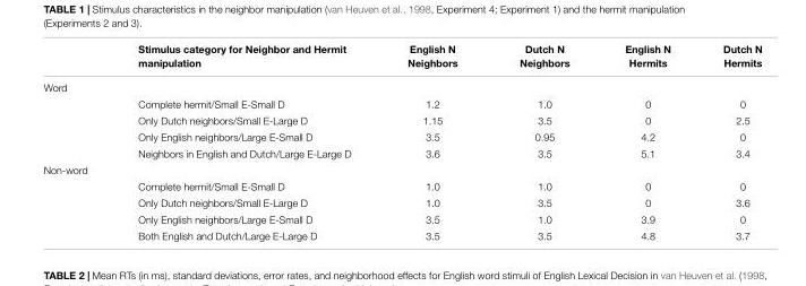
<table><thead><tr><td></td><td>Stimulus category for Neighbor and Hermit manipulation</td><td>English N Neighbors</td><td>Dutch N Neighbors</td><td>English N Hermits</td><td>Dutch N Hermits</td></tr></thead><tbody><tr><td colspan="6">Word</td></tr><tr><td></td><td>Complete hermit/Small E-Small D</td><td>1.2</td><td>1.0</td><td>0</td><td>0</td></tr><tr><td></td><td>Only Dutch neighbors/Small E-Large D</td><td>1.15</td><td>3.5</td><td>0</td><td>2.5</td></tr><tr><td></td><td>Only English neighbors/Large E-Small D</td><td>3.5</td><td>0.95</td><td>4.2</td><td>0</td></tr><tr><td></td><td>Neighbors in English and Dutch/Large E-Large D</td><td>3.6</td><td>3.5</td><td>5.1</td><td>3.4</td></tr><tr><td colspan="6">Non-word</td></tr><tr><td></td><td>Complete hermit/Small E-Small D</td><td>1.0</td><td>1.0</td><td>0</td><td>0</td></tr><tr><td></td><td>Only Dutch neighbors/Small E-Large D</td><td>1.0</td><td>3.5</td><td>0</td><td>3.6</td></tr><tr><td></td><td>Only English neighbors/Large E-Small D</td><td>3.5</td><td>1.0</td><td>3.9</td><td>0</td></tr><tr><td></td><td>Both English and Dutch/Large E-Large D</td><td>3.5</td><td>3.5</td><td>4.8</td><td>3.7</td></tr></tbody></table>